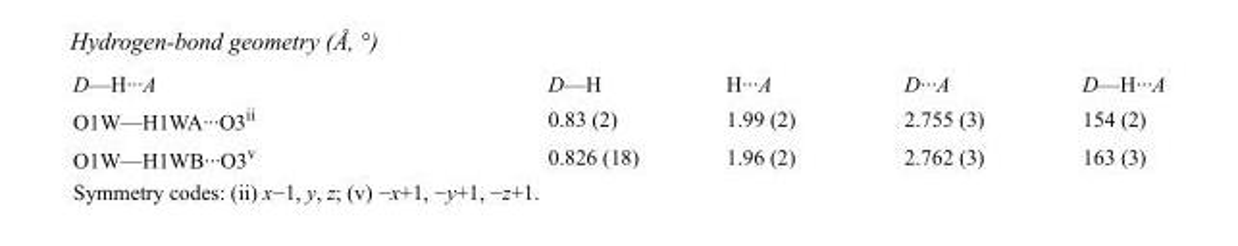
<table><tbody><tr><td>D—H···A</td><td>D—H</td><td>H···A</td><td>D···A</td><td>D—H···A</td></tr><tr><td>O1W—H1WA···O3<sup>ii</sup></td><td>0.83 (2)</td><td>1.99 (2)</td><td>2.755 (3)</td><td>154 (2)</td></tr><tr><td>O1W—H1WB···O3<sup>v</sup></td><td>0.826 (18)</td><td>1.96 (2)</td><td>2.762 (3)</td><td>163 (3)</td></tr></tbody></table>